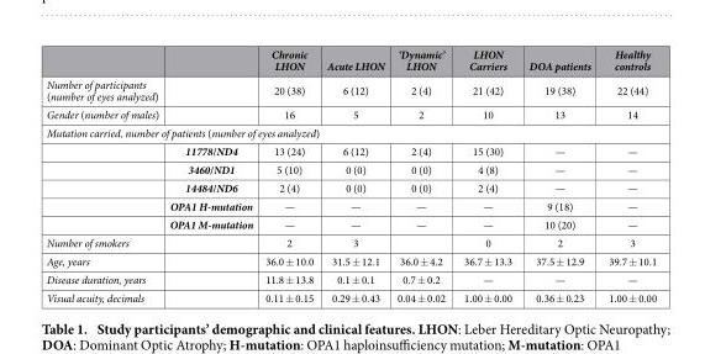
<table><thead><tr><td></td><td></td><td>Chronic LHON</td><td>Acute LHON</td><td>‘Dynamic’ LHON</td><td>LHON Carriers</td><td>DOA patients</td><td>Healthy controls</td></tr></thead><tbody><tr><td>Number of participants (number of eyes analyzed)</td><td></td><td>20 (38)</td><td>6 (12)</td><td>2 (4)</td><td>21 (42)</td><td>19 (38)</td><td>22 (44)</td></tr><tr><td>Gender (number of males)</td><td></td><td>16</td><td>5</td><td>2</td><td>10</td><td>13</td><td>14</td></tr><tr><td colspan="8">Mutation carried, number of patients (number of eyes analyzed)</td></tr><tr><td></td><td>11778/ND4</td><td>13 (24)</td><td>6 (12)</td><td>2 (4)</td><td>15 (30)</td><td>—</td><td>—</td></tr><tr><td></td><td>3460/ND1</td><td>5 (10)</td><td>0 (0)</td><td>0 (0)</td><td>4 (8)</td><td>—</td><td>—</td></tr><tr><td></td><td>14484/ND6</td><td>2 (4)</td><td>0 (0)</td><td>0 (0)</td><td>2 (4)</td><td>—</td><td>—</td></tr><tr><td></td><td>OPA1 H-mutation</td><td>—</td><td>—</td><td>—</td><td>—</td><td>9 (18)</td><td>—</td></tr><tr><td></td><td>OPA1 M-mutation</td><td>—</td><td>—</td><td>—</td><td>—</td><td>10 (20)</td><td>—</td></tr><tr><td>Number of smokers</td><td></td><td>2</td><td>3</td><td></td><td>0</td><td>2</td><td>3</td></tr><tr><td>Age, years</td><td></td><td>36.0 ± 10.0</td><td>31.5 ± 12.1</td><td>36.0 ± 4.2</td><td>36.7 ± 13.3</td><td>37.5 ± 12.9</td><td>39.7 ± 10.1</td></tr><tr><td>Disease duration, years</td><td></td><td>11.8 ± 13.8</td><td>0.1 ± 0.1</td><td>0.7 ± 0.2</td><td>—</td><td>—</td><td>—</td></tr><tr><td>Visual acuity, decimals</td><td></td><td>0.11 ± 0.15</td><td>0.29 ± 0.43</td><td>0.04 ± 0.02</td><td>1.00 ± 0.00</td><td>0.36 ± 0.23</td><td>1.00 ± 0.00</td></tr></tbody></table>